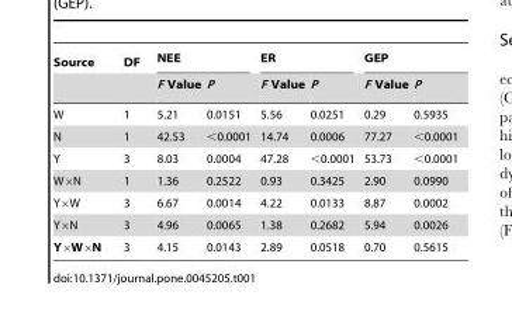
<table><thead><tr><td rowspan="2">Source</td><td rowspan="2">DF</td><td colspan="2">NEE</td><td colspan="2">ER</td><td colspan="2">GEP</td></tr><tr><td>F Value</td><td>P</td><td>F Value</td><td>P</td><td>F Value</td><td>P</td></tr></thead><tbody><tr><td>W</td><td>1</td><td>5.21</td><td>0.0151</td><td>5.56</td><td>0.0251</td><td>0.29</td><td>0.5935</td></tr><tr><td>N</td><td>1</td><td>42.53</td><td>&lt;0.0001</td><td>14.74</td><td>0.0006</td><td>77.27</td><td>&lt;0.0001</td></tr><tr><td>Y</td><td>3</td><td>8.03</td><td>0.0004</td><td>47.28</td><td>&lt;0.0001</td><td>53.73</td><td>&lt;0.0001</td></tr><tr><td>W×N</td><td>1</td><td>1.36</td><td>0.2522</td><td>0.93</td><td>0.3425</td><td>2.90</td><td>0.0990</td></tr><tr><td>Y×W</td><td>3</td><td>6.67</td><td>0.0014</td><td>4.22</td><td>0.0133</td><td>8.87</td><td>0.0002</td></tr><tr><td>Y×N</td><td>3</td><td>4.96</td><td>0.0065</td><td>1.38</td><td>0.2682</td><td>5.94</td><td>0.0026</td></tr><tr><td>Y×W×N</td><td>3</td><td>4.15</td><td>0.0143</td><td>2.89</td><td>0.0518</td><td>0.70</td><td>0.5615</td></tr></tbody></table>